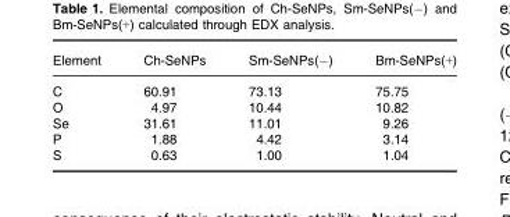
<table><thead><tr><td>Element</td><td>Ch-SeNPs</td><td>Sm-SeNPs(−)</td><td>Bm-SeNPs(+)</td></tr></thead><tbody><tr><td>C</td><td>60.91</td><td>73.13</td><td>75.75</td></tr><tr><td>O</td><td>4.97</td><td>10.44</td><td>10.82</td></tr><tr><td>Se</td><td>31.61</td><td>11.01</td><td>9.26</td></tr><tr><td>P</td><td>1.88</td><td>4.42</td><td>3.14</td></tr><tr><td>S</td><td>0.63</td><td>1.00</td><td>1.04</td></tr></tbody></table>